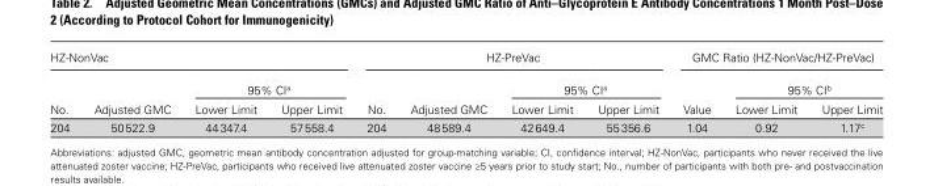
<table><thead><tr><td colspan="4">HZ-NonVac</td><td colspan="4">HZ-PreVac</td><td colspan="3">GMC Ratio (HZ-NonVac/HZ-PreVac)</td></tr><tr><td rowspan="2">No.</td><td rowspan="2">Adjusted GMC</td><td colspan="2">95% CI<sup>a</sup></td><td rowspan="2">No.</td><td rowspan="2">Adjusted GMC</td><td colspan="2">95% CI<sup>a</sup></td><td rowspan="2">Value</td><td colspan="2">95% CI<sup>b</sup></td></tr><tr><td>Lower Limit</td><td>Upper Limit</td><td>Lower Limit</td><td>Upper Limit</td><td>Lower Limit</td><td>Upper Limit</td></tr></thead><tbody><tr><td>204</td><td>50 522.9</td><td>44 347.4</td><td>57 558.4</td><td>204</td><td>48 589.4</td><td>42 649.4</td><td>55 356.6</td><td>1.04</td><td>0.92</td><td>1.17<sup>c</sup></td></tr></tbody></table>